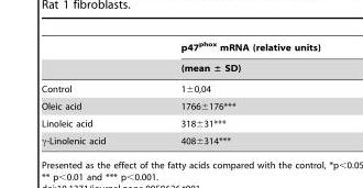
<table><thead><tr><td rowspan="2"></td><td rowspan="2">p47<sup>phox</sup> mRNA (relative units) (mean ± SD)</td></tr><tr></tr></thead><tbody><tr><td>Control</td><td>1±0,04</td></tr><tr><td>Oleic acid</td><td>1766±176***</td></tr><tr><td>Linoleic acid</td><td>318±31***</td></tr><tr><td>γ-Linolenic acid</td><td>408±314***</td></tr></tbody></table>